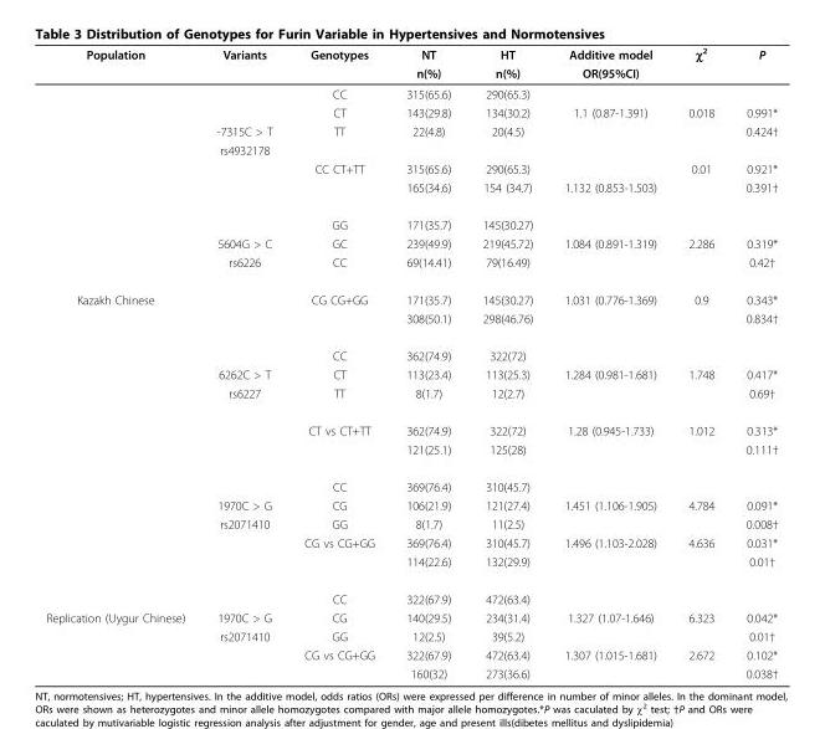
<table><thead><tr><td rowspan="2">Population</td><td rowspan="2">Variants</td><td rowspan="2">Genotypes</td><td rowspan="2">NT n(%)</td><td rowspan="2">HT n(%)</td><td rowspan="2">Additive model OR(95%CI)</td><td rowspan="2">χ<sup>2</sup></td><td rowspan="2">P</td></tr><tr></tr></thead><tbody><tr><td></td><td></td><td>CC</td><td>315(65.6)</td><td>290(65.3)</td><td></td><td></td><td></td></tr><tr><td></td><td></td><td>CT</td><td>143(29.8)</td><td>134(30.2)</td><td>1.1 (0.87-1.391)</td><td>0.018</td><td>0.991*</td></tr><tr><td></td><td>-7315C &gt; T</td><td>TT</td><td>22(4.8)</td><td>20(4.5)</td><td></td><td></td><td>0.424†</td></tr><tr><td></td><td>rs4932178</td><td></td><td></td><td></td><td></td><td></td><td></td></tr><tr><td></td><td></td><td>CC CT+TT</td><td>315(65.6)</td><td>290(65.3)</td><td></td><td>0.01</td><td>0.921*</td></tr><tr><td></td><td></td><td></td><td>165(34.6)</td><td>154 (34.7)</td><td>1.132 (0.853-1.503)</td><td></td><td>0.391†</td></tr><tr><td></td><td></td><td>GG</td><td>171(35.7)</td><td>145(30.27)</td><td></td><td></td><td></td></tr><tr><td></td><td>5604G &gt; C</td><td>GC</td><td>239(49.9)</td><td>219(45.72)</td><td>1.084 (0.891-1.319)</td><td>2.286</td><td>0.319*</td></tr><tr><td></td><td>rs6226</td><td>CC</td><td>69(14.41)</td><td>79(16.49)</td><td></td><td></td><td>0.42†</td></tr><tr><td rowspan="13">Kazakh Chinese</td><td></td><td>CG CG+GG</td><td>171(35.7)</td><td>145(30.27)</td><td>1.031 (0.776-1.369)</td><td>0.9</td><td>0.343*</td></tr><tr><td></td><td></td><td>308(50.1)</td><td>298(46.76)</td><td></td><td></td><td>0.834†</td></tr><tr><td></td><td>CC</td><td>362(74.9)</td><td>322(72)</td><td></td><td></td><td></td></tr><tr><td>6262C &gt; T</td><td>CT</td><td>113(23.4)</td><td>113(25.3)</td><td>1.284 (0.981-1.681)</td><td>1.748</td><td>0.417*</td></tr><tr><td>rs6227</td><td>TT</td><td>8(1.7)</td><td>12(2.7)</td><td></td><td></td><td>0.69†</td></tr><tr><td></td><td>CT vs CT+TT</td><td>362(74.9)</td><td>322(72)</td><td>1.28 (0.945-1.733)</td><td>1.012</td><td>0.313*</td></tr><tr><td></td><td></td><td>121(25.1)</td><td>125(28)</td><td></td><td></td><td>0.111†</td></tr><tr><td></td><td>CC</td><td>369(76.4)</td><td>310(45.7)</td><td></td><td></td><td></td></tr><tr><td>1970C &gt; G</td><td>CG</td><td>106(21.9)</td><td>121(27.4)</td><td>1.451 (1.106-1.905)</td><td>4.784</td><td>0.091*</td></tr><tr><td>rs2071410</td><td>GG</td><td>8(1.7)</td><td>11(2.5)</td><td></td><td></td><td>0.008†</td></tr><tr><td></td><td>CG vs CG+GG</td><td>369(76.4)</td><td>310(45.7)</td><td>1.496 (1.103-2.028)</td><td>4.636</td><td>0.031*</td></tr><tr><td></td><td></td><td>114(22.6)</td><td>132(29.9)</td><td></td><td></td><td>0.01†</td></tr><tr><td></td><td>CC</td><td>322(67.9)</td><td>472(63.4)</td><td></td><td></td><td></td></tr><tr><td rowspan="4">Replication (Uygur Chinese)</td><td>1970C &gt; G</td><td>CG</td><td>140(29.5)</td><td>234(31.4)</td><td>1.327 (1.07-1.646)</td><td>6.323</td><td>0.042*</td></tr><tr><td>rs2071410</td><td>GG</td><td>12(2.5)</td><td>39(5.2)</td><td></td><td></td><td>0.01†</td></tr><tr><td></td><td>CG vs CG+GG</td><td>322(67.9)</td><td>472(63.4)</td><td>1.307 (1.015-1.681)</td><td>2.672</td><td>0.102*</td></tr><tr><td></td><td></td><td>160(32)</td><td>273(36.6)</td><td></td><td></td><td>0.038†</td></tr></tbody></table>